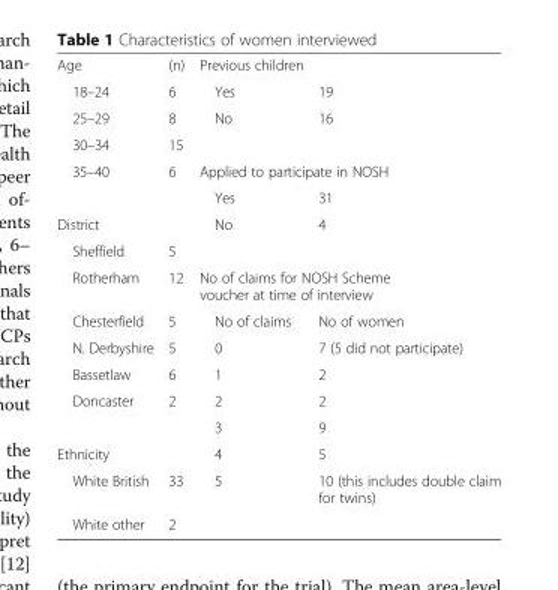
<table><tbody><tr><td>Age</td><td>(n)</td><td>Previous children</td><td></td></tr><tr><td>18–24</td><td>6</td><td>Yes</td><td>19</td></tr><tr><td>25–29</td><td>8</td><td>No</td><td>16</td></tr><tr><td>30–34</td><td>15</td><td></td><td></td></tr><tr><td rowspan="2">35–40</td><td>6</td><td colspan="2">Applied to participate in NOSH</td></tr><tr><td></td><td>Yes</td><td>31</td></tr><tr><td colspan="2">District</td><td>No</td><td>4</td></tr><tr><td>Sheffield</td><td>5</td><td></td><td></td></tr><tr><td>Rotherham</td><td>12</td><td colspan="2">No of claims for NOSH Scheme voucher at time of interview</td></tr><tr><td>Chesterfield</td><td>5</td><td>No of claims</td><td>No of women</td></tr><tr><td>N. Derbyshire</td><td>5</td><td>0</td><td>7 (5 did not participate)</td></tr><tr><td>Bassetlaw</td><td>6</td><td>1</td><td>2</td></tr><tr><td rowspan="2">Doncaster</td><td>2</td><td>2</td><td>2</td></tr><tr><td></td><td>3</td><td>9</td></tr><tr><td colspan="2">Ethnicity</td><td>4</td><td>5</td></tr><tr><td>White British</td><td>33</td><td>5</td><td>10 (this includes double claim for twins)</td></tr><tr><td>White other</td><td>2</td><td></td><td></td></tr></tbody></table>